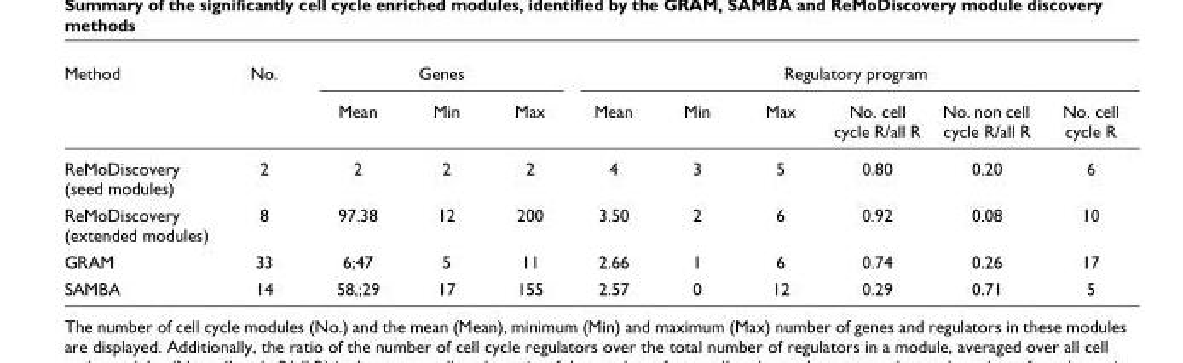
<table><thead><tr><td rowspan="2">Method</td><td rowspan="2">No.</td><td colspan="3">Genes</td><td colspan="6">Regulatory program</td></tr><tr><td>Mean</td><td>Min</td><td>Max</td><td>Mean</td><td>Min</td><td>Max</td><td>No. cell cycle R/all R</td><td>No. non cell cycle R/all R</td><td>No. cell cycle R</td></tr></thead><tbody><tr><td>ReMoDiscovery (seed modules)</td><td>2</td><td>2</td><td>2</td><td>2</td><td>4</td><td>3</td><td>5</td><td>0.80</td><td>0.20</td><td>6</td></tr><tr><td>ReMoDiscovery (extended modules)</td><td>8</td><td>97.38</td><td>12</td><td>200</td><td>3.50</td><td>2</td><td>6</td><td>0.92</td><td>0.08</td><td>10</td></tr><tr><td>GRAM</td><td>33</td><td>6;47</td><td>5</td><td>11</td><td>2.66</td><td>1</td><td>6</td><td>0.74</td><td>0.26</td><td>17</td></tr><tr><td>SAMBA</td><td>14</td><td>58,;29</td><td>17</td><td>155</td><td>2.57</td><td>0</td><td>12</td><td>0.29</td><td>0.71</td><td>5</td></tr></tbody></table>